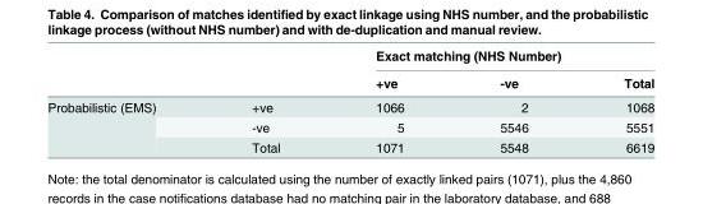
<table><thead><tr><td rowspan="2"></td><td rowspan="2"></td><td colspan="3">Exact matching (NHS Number)</td></tr><tr><td>+ve</td><td>-ve</td><td>Total</td></tr></thead><tbody><tr><td rowspan="3">Probabilistic (EMS)</td><td>+ve</td><td>1066</td><td>2</td><td>1068</td></tr><tr><td>-ve</td><td>5</td><td>5546</td><td>5551</td></tr><tr><td>Total</td><td>1071</td><td>5548</td><td>6619</td></tr></tbody></table>